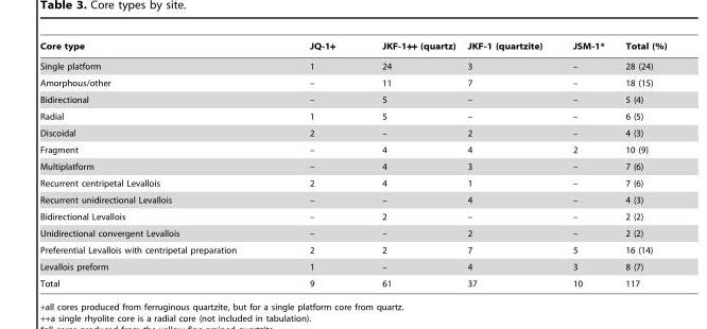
<table><thead><tr><td>Core type</td><td>JQ-1+</td><td>JKF-1++ (quartz)</td><td>JKF-1 (quartzite)</td><td>JSM-1*</td><td>Total (%)</td></tr></thead><tbody><tr><td>Single platform</td><td>1</td><td>24</td><td>3</td><td>–</td><td>28 (24)</td></tr><tr><td>Amorphous/other</td><td>–</td><td>11</td><td>7</td><td>–</td><td>18 (15)</td></tr><tr><td>Bidirectional</td><td>–</td><td>5</td><td>–</td><td>–</td><td>5 (4)</td></tr><tr><td>Radial</td><td>1</td><td>5</td><td>–</td><td>–</td><td>6 (5)</td></tr><tr><td>Discoidal</td><td>2</td><td>–</td><td>2</td><td>–</td><td>4 (3)</td></tr><tr><td>Fragment</td><td>–</td><td>4</td><td>4</td><td>2</td><td>10 (9)</td></tr><tr><td>Multiplatform</td><td>–</td><td>4</td><td>3</td><td>–</td><td>7 (6)</td></tr><tr><td>Recurrent centripetal Levallois</td><td>2</td><td>4</td><td>1</td><td>–</td><td>7 (6)</td></tr><tr><td>Recurrent unidirectional Levallois</td><td>–</td><td>–</td><td>4</td><td>–</td><td>4 (3)</td></tr><tr><td>Bidirectional Levallois</td><td>–</td><td>2</td><td>–</td><td>–</td><td>2 (2)</td></tr><tr><td>Unidirectional convergent Levallois</td><td>–</td><td>–</td><td>2</td><td>–</td><td>2 (2)</td></tr><tr><td>Preferential Levallois with centripetal preparation</td><td>2</td><td>2</td><td>7</td><td>5</td><td>16 (14)</td></tr><tr><td>Levallois preform</td><td>1</td><td>–</td><td>4</td><td>3</td><td>8 (7)</td></tr><tr><td>Total</td><td>9</td><td>61</td><td>37</td><td>10</td><td>117</td></tr></tbody></table>